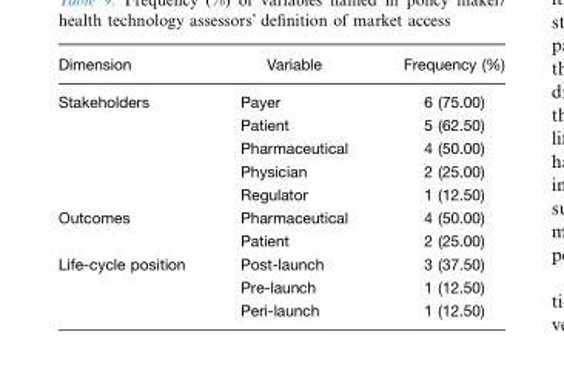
<table><thead><tr><td>Dimension</td><td>Variable</td><td>Frequency (%)</td></tr></thead><tbody><tr><td rowspan="5">Stakeholders</td><td>Payer</td><td>6 (75.00)</td></tr><tr><td>Patient</td><td>5 (62.50)</td></tr><tr><td>Pharmaceutical</td><td>4 (50.00)</td></tr><tr><td>Physician</td><td>2 (25.00)</td></tr><tr><td>Regulator</td><td>1 (12.50)</td></tr><tr><td rowspan="2">Outcomes</td><td>Pharmaceutical</td><td>4 (50.00)</td></tr><tr><td>Patient</td><td>2 (25.00)</td></tr><tr><td rowspan="3">Life-cycle position</td><td>Post-launch</td><td>3 (37.50)</td></tr><tr><td>Pre-launch</td><td>1 (12.50)</td></tr><tr><td>Peri-launch</td><td>1 (12.50)</td></tr></tbody></table>